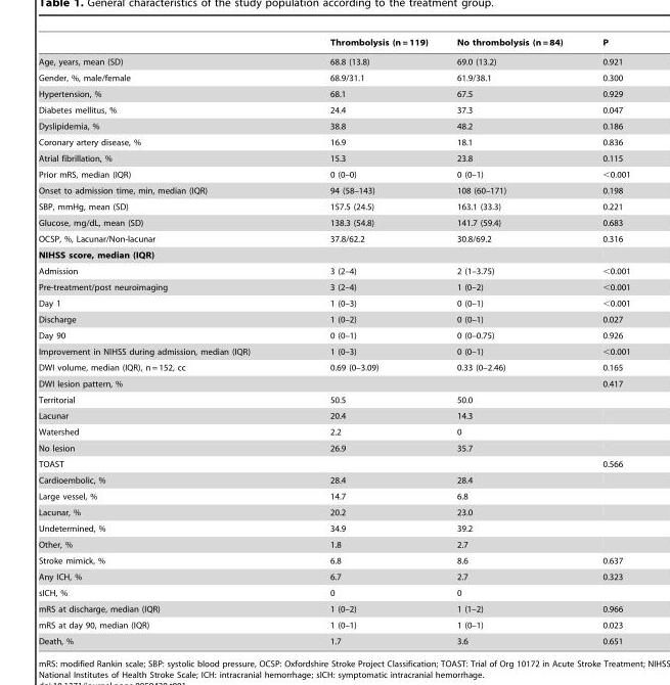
<table><thead><tr><td></td><td>Thrombolysis (n = 119)</td><td>No thrombolysis (n = 84)</td><td>P</td></tr></thead><tbody><tr><td>Age, years, mean (SD)</td><td>68.8 (13.8)</td><td>69.0 (13.2)</td><td>0.921</td></tr><tr><td>Gender, %, male/female</td><td>68.9/31.1</td><td>61.9/38.1</td><td>0.300</td></tr><tr><td>Hypertension, %</td><td>68.1</td><td>67.5</td><td>0.929</td></tr><tr><td>Diabetes mellitus, %</td><td>24.4</td><td>37.3</td><td>0.047</td></tr><tr><td>Dyslipidemia, %</td><td>38.8</td><td>48.2</td><td>0.186</td></tr><tr><td>Coronary artery disease, %</td><td>16.9</td><td>18.1</td><td>0.836</td></tr><tr><td>Atrial fibrillation, %</td><td>15.3</td><td>23.8</td><td>0.115</td></tr><tr><td>Prior mRS, median (IQR)</td><td>0 (0–0)</td><td>0 (0–1)</td><td>&lt;0.001</td></tr><tr><td>Onset to admission time, min, median (IQR)</td><td>94 (58–143)</td><td>108 (60–171)</td><td>0.198</td></tr><tr><td>SBP, mmHg, mean (SD)</td><td>157.5 (24.5)</td><td>163.1 (33.3)</td><td>0.221</td></tr><tr><td>Glucose, mg/dL, mean (SD)</td><td>138.3 (54.8)</td><td>141.7 (59.4)</td><td>0.683</td></tr><tr><td>OCSP, %, Lacunar/Non-lacunar</td><td>37.8/62.2</td><td>30.8/69.2</td><td>0.316</td></tr><tr><td colspan="4">NIHSS score, median (IQR)</td></tr><tr><td>Admission</td><td>3 (2–4)</td><td>2 (1–3.75)</td><td>&lt;0.001</td></tr><tr><td>Pre-treatment/post neuroimaging</td><td>3 (2–4)</td><td>1 (0–2)</td><td>&lt;0.001</td></tr><tr><td>Day 1</td><td>1 (0–3)</td><td>0 (0–1)</td><td>&lt;0.001</td></tr><tr><td>Discharge</td><td>1 (0–2)</td><td>0 (0–1)</td><td>0.027</td></tr><tr><td>Day 90</td><td>0 (0–1)</td><td>0 (0–0.75)</td><td>0.926</td></tr><tr><td>Improvement in NIHSS during admission, median (IQR)</td><td>1 (0–3)</td><td>0 (0–1)</td><td>&lt;0.001</td></tr><tr><td>DWI volume, median (IQR), n = 152, cc</td><td>0.69 (0–3.09)</td><td>0.33 (0–2.46)</td><td>0.165</td></tr><tr><td>DWI lesion pattern, %</td><td></td><td></td><td>0.417</td></tr><tr><td>Territorial</td><td>50.5</td><td>50.0</td><td></td></tr><tr><td>Lacunar</td><td>20.4</td><td>14.3</td><td></td></tr><tr><td>Watershed</td><td>2.2</td><td>0</td><td></td></tr><tr><td>No lesion</td><td>26.9</td><td>35.7</td><td></td></tr><tr><td>TOAST</td><td></td><td></td><td>0.566</td></tr><tr><td>Cardioembolic, %</td><td>28.4</td><td>28.4</td><td></td></tr><tr><td>Large vessel, %</td><td>14.7</td><td>6.8</td><td></td></tr><tr><td>Lacunar, %</td><td>20.2</td><td>23.0</td><td></td></tr><tr><td>Undetermined, %</td><td>34.9</td><td>39.2</td><td></td></tr><tr><td>Other, %</td><td>1.8</td><td>2.7</td><td></td></tr><tr><td>Stroke mimick, %</td><td>6.8</td><td>8.6</td><td>0.637</td></tr><tr><td>Any ICH, %</td><td>6.7</td><td>2.7</td><td>0.323</td></tr><tr><td>sICH, %</td><td>0</td><td>0</td><td></td></tr><tr><td>mRS at discharge, median (IQR)</td><td>1 (0–2)</td><td>1 (1–2)</td><td>0.966</td></tr><tr><td>mRS at day 90, median (IQR)</td><td>1 (0–1)</td><td>1 (0–1)</td><td>0.023</td></tr><tr><td>Death, %</td><td>1.7</td><td>3.6</td><td>0.651</td></tr></tbody></table>